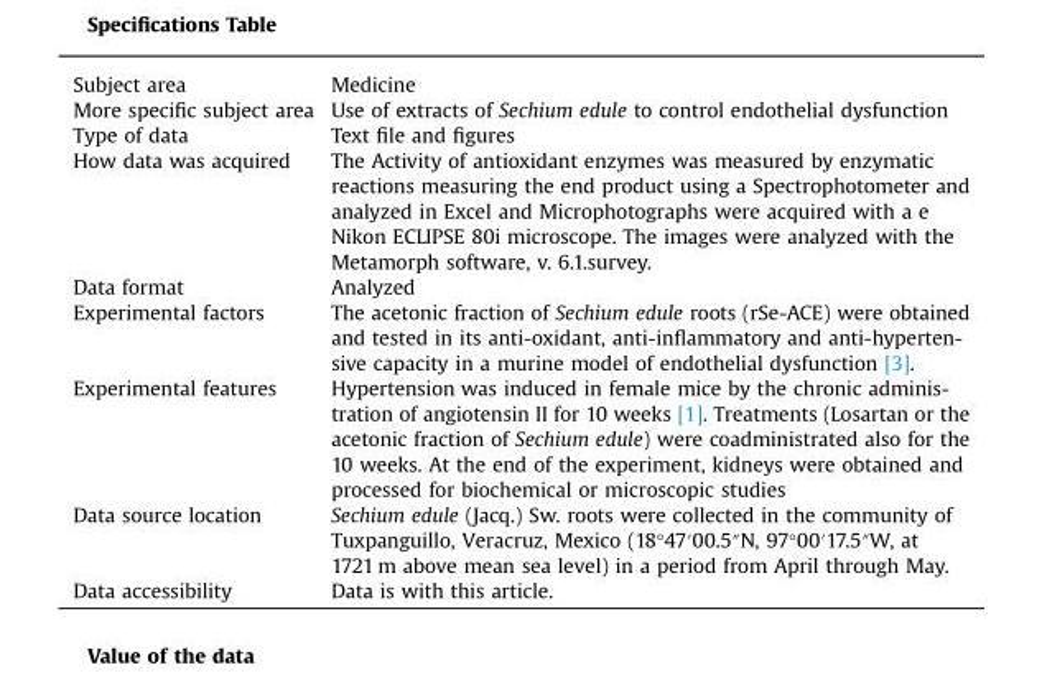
<table><tbody><tr><td>Subject area</td><td>Medicine</td></tr><tr><td>More specific subject area</td><td>Use of extracts of Sechium edule to control endothelial dysfunction</td></tr><tr><td>Type of data</td><td>Text file and figures</td></tr><tr><td>How data was acquired</td><td>The Activity of antioxidant enzymes was measured by enzymatic reactions measuring the end product using a Spectrophotometer and analyzed in Excel and Microphotographs were acquired with a e Nikon ECLIPSE 80i microscope. The images were analyzed with the Metamorph software, v. 6.1.survey.</td></tr><tr><td>Data format</td><td>Analyzed</td></tr><tr><td>Experimental factors</td><td>The acetonic fraction of Sechium edule roots (rSe-ACE) were obtained and tested in its anti-oxidant, anti-inflammatory and anti-hyperten- sive capacity in a murine model of endothelial dysfunction [3].</td></tr><tr><td>Experimental features</td><td>Hypertension was induced in female mice by the chronic adminis- tration of angiotensin II for 10 weeks [1]. Treatments (Losartan or the acetonic fraction of Sechium edule) were coadministrated also for the 10 weeks. At the end of the experiment, kidneys were obtained and processed for biochemical or microscopic studies</td></tr><tr><td>Data source location</td><td>Sechium edule (Jacq.) Sw. roots were collected in the community of Tuxpanguillo, Veracruz, Mexico (18°47′00.5″N, 97°00′17.5″W, at 1721 m above mean sea level) in a period from April through May.</td></tr><tr><td>Data accessibility</td><td>Data is with this article.</td></tr></tbody></table>